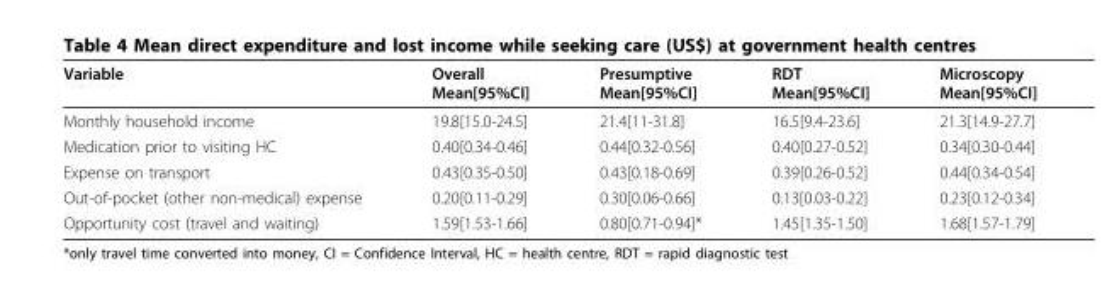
<table><thead><tr><td>Variable</td><td>Overall Mean[95%CI]</td><td>Presumptive Mean[95%CI]</td><td>RDT Mean[95%CI]</td><td>Microscopy Mean[95%CI]</td></tr></thead><tbody><tr><td>Monthly household income</td><td>19.8[15.0-24.5]</td><td>21.4[11-31.8]</td><td>16.5[9.4-23.6]</td><td>21.3[14.9-27.7]</td></tr><tr><td>Medication prior to visiting HC</td><td>0.40[0.34-0.46]</td><td>0.44[0.32-0.56]</td><td>0.40[0.27-0.52]</td><td>0.34[0.30-0.44]</td></tr><tr><td>Expense on transport</td><td>0.43[0.35-0.50]</td><td>0.43[0.18-0.69]</td><td>0.39[0.26-0.52]</td><td>0.44[0.34-0.54]</td></tr><tr><td>Out-of-pocket (other non-medical) expense</td><td>0.20[0.11-0.29]</td><td>0.30[0.06-0.66]</td><td>0.13[0.03-0.22]</td><td>0.23[0.12-0.34]</td></tr><tr><td>Opportunity cost (travel and waiting)</td><td>1.59[1.53-1.66]</td><td>0.80[0.71-0.94]*</td><td>1.45[1.35-1.50]</td><td>1.68[1.57-1.79]</td></tr></tbody></table>